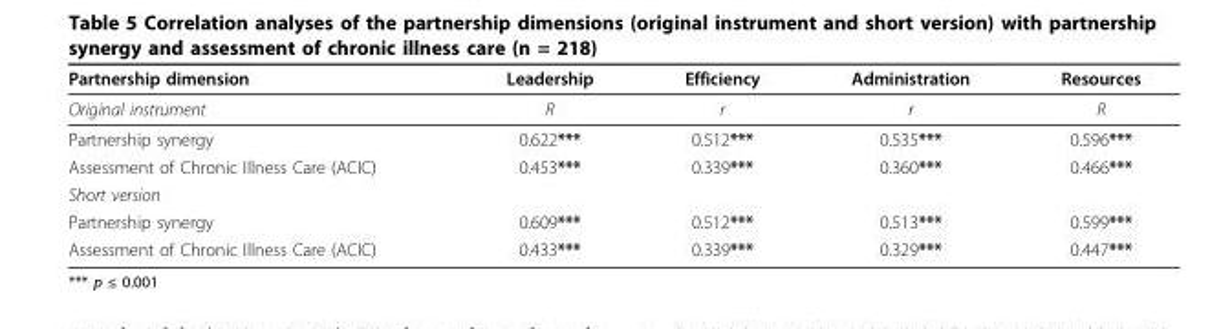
<table><thead><tr><td>Partnership dimension</td><td>Leadership</td><td>Efficiency</td><td>Administration</td><td>Resources</td></tr></thead><tbody><tr><td>Original instrument</td><td>R</td><td>r</td><td>r</td><td>R</td></tr><tr><td>Partnership synergy</td><td>0.622***</td><td>0.512***</td><td>0.535***</td><td>0.596***</td></tr><tr><td>Assessment of Chronic Illness Care (ACIC)</td><td>0.453***</td><td>0.339***</td><td>0.360***</td><td>0.466***</td></tr><tr><td colspan="5">Short version</td></tr><tr><td>Partnership synergy</td><td>0.609***</td><td>0.512***</td><td>0.513***</td><td>0.599***</td></tr><tr><td>Assessment of Chronic Illness Care (ACIC)</td><td>0.433***</td><td>0.339***</td><td>0.329***</td><td>0.447***</td></tr></tbody></table>